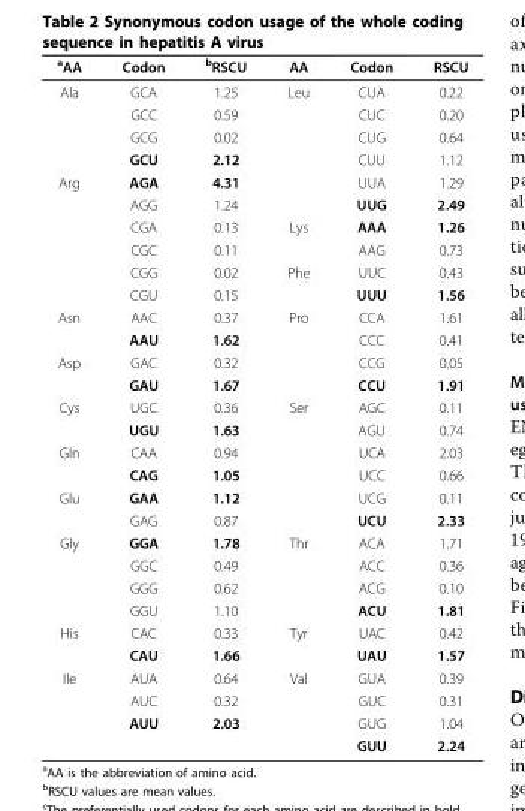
<table><thead><tr><td><sup>a</sup>AA</td><td>Codon</td><td><sup>b</sup>RSCU</td><td>AA</td><td>Codon</td><td>RSCU</td></tr></thead><tbody><tr><td rowspan="4">Ala</td><td>GCA</td><td>1.25</td><td>Leu</td><td>CUA</td><td>0.22</td></tr><tr><td>GCC</td><td>0.59</td><td></td><td>CUC</td><td>0.20</td></tr><tr><td>GCG</td><td>0.02</td><td></td><td>CUG</td><td>0.64</td></tr><tr><td>GCU</td><td>2.12</td><td></td><td>CUU</td><td>1.12</td></tr><tr><td rowspan="6">Arg</td><td>AGA</td><td>4.31</td><td></td><td>UUA</td><td>1.29</td></tr><tr><td>AGG</td><td>1.24</td><td></td><td>UUG</td><td>2.49</td></tr><tr><td>CGA</td><td>0.13</td><td>Lys</td><td>AAA</td><td>1.26</td></tr><tr><td>CGC</td><td>0.11</td><td></td><td>AAG</td><td>0.73</td></tr><tr><td>CGG</td><td>0.02</td><td>Phe</td><td>UUC</td><td>0.43</td></tr><tr><td>CGU</td><td>0.15</td><td></td><td>UUU</td><td>1.56</td></tr><tr><td rowspan="2">Asn</td><td>AAC</td><td>0.37</td><td>Pro</td><td>CCA</td><td>1.61</td></tr><tr><td>AAU</td><td>1.62</td><td></td><td>CCC</td><td>0.41</td></tr><tr><td rowspan="2">Asp</td><td>GAC</td><td>0.32</td><td></td><td>CCG</td><td>0.05</td></tr><tr><td>GAU</td><td>1.67</td><td></td><td>CCU</td><td>1.91</td></tr><tr><td rowspan="2">Cys</td><td>UGC</td><td>0.36</td><td>Ser</td><td>AGC</td><td>0.11</td></tr><tr><td>UGU</td><td>1.63</td><td></td><td>AGU</td><td>0.74</td></tr><tr><td rowspan="2">Gln</td><td>CAA</td><td>0.94</td><td></td><td>UCA</td><td>2.03</td></tr><tr><td>CAG</td><td>1.05</td><td></td><td>UCC</td><td>0.66</td></tr><tr><td rowspan="2">Glu</td><td>GAA</td><td>1.12</td><td></td><td>UCG</td><td>0.11</td></tr><tr><td>GAG</td><td>0.87</td><td></td><td>UCU</td><td>2.33</td></tr><tr><td rowspan="4">Gly</td><td>GGA</td><td>1.78</td><td>Thr</td><td>ACA</td><td>1.71</td></tr><tr><td>GGC</td><td>0.49</td><td></td><td>ACC</td><td>0.36</td></tr><tr><td>GGG</td><td>0.62</td><td></td><td>ACG</td><td>0.10</td></tr><tr><td>GGU</td><td>1.10</td><td></td><td>ACU</td><td>1.81</td></tr><tr><td rowspan="2">His</td><td>CAC</td><td>0.33</td><td>Tyr</td><td>UAC</td><td>0.42</td></tr><tr><td>CAU</td><td>1.66</td><td></td><td>UAU</td><td>1.57</td></tr><tr><td rowspan="4">Ile</td><td>AUA</td><td>0.64</td><td>Val</td><td>GUA</td><td>0.39</td></tr><tr><td>AUC</td><td>0.32</td><td></td><td>GUC</td><td>0.31</td></tr><tr><td>AUU</td><td>2.03</td><td></td><td>GUG</td><td>1.04</td></tr><tr><td></td><td></td><td></td><td>GUU</td><td>2.24</td></tr></tbody></table>